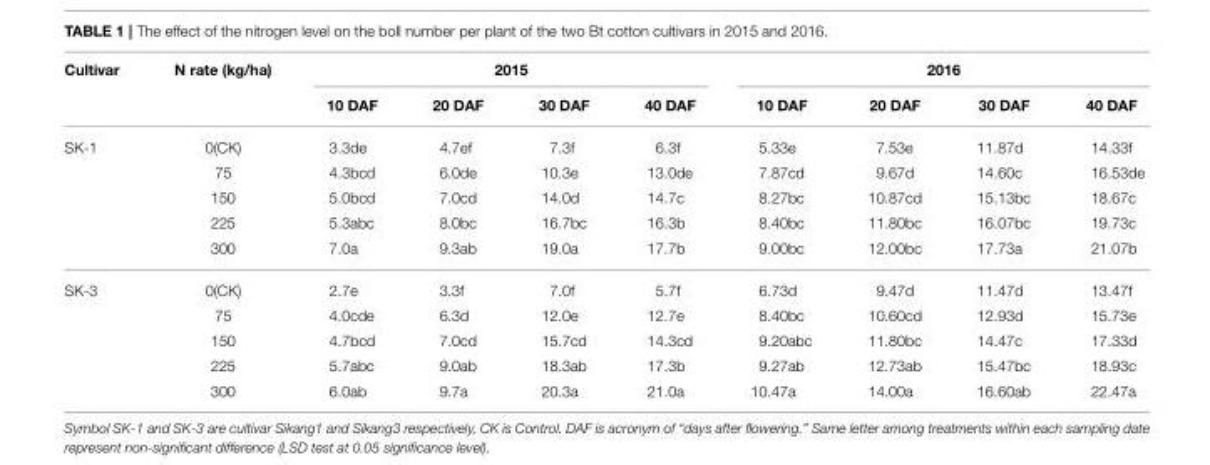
<table><thead><tr><td rowspan="2">Cultivar</td><td rowspan="2">N rate (kg/ha)</td><td colspan="4">2015</td><td colspan="4">2016</td></tr><tr><td>10 DAF</td><td>20 DAF</td><td>30 DAF</td><td>40 DAF</td><td>10 DAF</td><td>20 DAF</td><td>30 DAF</td><td>40 DAF</td></tr></thead><tbody><tr><td rowspan="5">SK-1</td><td>0(CK)</td><td>3.3de</td><td>4.7ef</td><td>7.3f</td><td>6.3f</td><td>5.33e</td><td>7.53e</td><td>11.87d</td><td>14.33f</td></tr><tr><td>75</td><td>4.3bcd</td><td>6.0de</td><td>10.3e</td><td>13.0de</td><td>7.87cd</td><td>9.67d</td><td>14.60c</td><td>16.53de</td></tr><tr><td>150</td><td>5.0bcd</td><td>7.0cd</td><td>14.0d</td><td>14.7c</td><td>8.27bc</td><td>10.87cd</td><td>15.13bc</td><td>18.67c</td></tr><tr><td>225</td><td>5.3abc</td><td>8.0bc</td><td>16.7bc</td><td>16.3b</td><td>8.40bc</td><td>11.80bc</td><td>16.07bc</td><td>19.73c</td></tr><tr><td>300</td><td>7.0a</td><td>9.3ab</td><td>19.0a</td><td>17.7b</td><td>9.00bc</td><td>12.00bc</td><td>17.73a</td><td>21.07b</td></tr><tr><td rowspan="5">SK-3</td><td>0(CK)</td><td>2.7e</td><td>3.3f</td><td>7.0f</td><td>5.7f</td><td>6.73d</td><td>9.47d</td><td>11.47d</td><td>13.47f</td></tr><tr><td>75</td><td>4.0cde</td><td>6.3d</td><td>12.0e</td><td>12.7e</td><td>8.40bc</td><td>10.60cd</td><td>12.93d</td><td>15.73e</td></tr><tr><td>150</td><td>4.7bcd</td><td>7.0cd</td><td>15.7cd</td><td>14.3cd</td><td>9.20abc</td><td>11.80bc</td><td>14.47c</td><td>17.33d</td></tr><tr><td>225</td><td>5.7abc</td><td>9.0ab</td><td>18.3ab</td><td>17.3b</td><td>9.27ab</td><td>12.73ab</td><td>15.47bc</td><td>18.93c</td></tr><tr><td>300</td><td>6.0ab</td><td>9.7a</td><td>20.3a</td><td>21.0a</td><td>10.47a</td><td>14.00a</td><td>16.60ab</td><td>22.47a</td></tr></tbody></table>